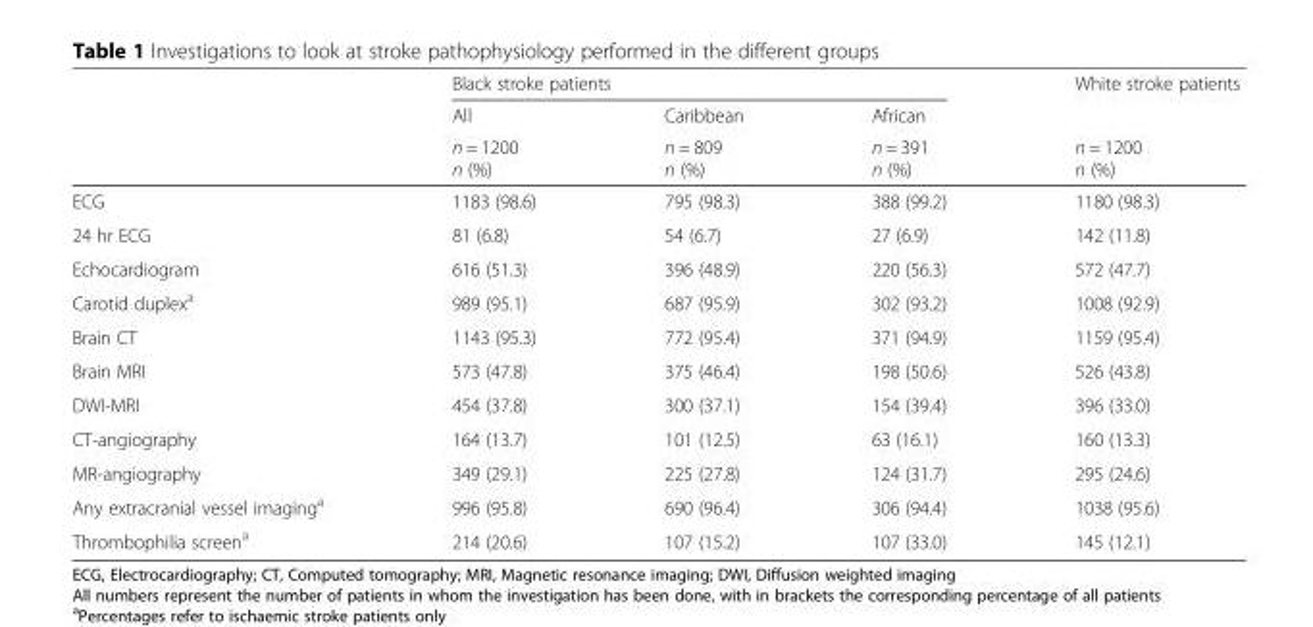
<table><thead><tr><td rowspan="3"></td><td colspan="3">Black stroke patients</td><td rowspan="3">White stroke patients n = 1200 n (%)</td></tr><tr><td rowspan="2">All n = 1200 n (%)</td><td rowspan="2">Caribbean n = 809 n (%)</td><td rowspan="2">African n = 391 n (%)</td></tr><tr></tr></thead><tbody><tr><td>ECG</td><td>1183 (98.6)</td><td>795 (98.3)</td><td>388 (99.2)</td><td>1180 (98.3)</td></tr><tr><td>24 hr ECG</td><td>81 (6.8)</td><td>54 (6.7)</td><td>27 (6.9)</td><td>142 (11.8)</td></tr><tr><td>Echocardiogram</td><td>616 (51.3)</td><td>396 (48.9)</td><td>220 (56.3)</td><td>572 (47.7)</td></tr><tr><td>Carotid duplex<sup>a</sup></td><td>989 (95.1)</td><td>687 (95.9)</td><td>302 (93.2)</td><td>1008 (92.9)</td></tr><tr><td>Brain CT</td><td>1143 (95.3)</td><td>772 (95.4)</td><td>371 (94.9)</td><td>1159 (95.4)</td></tr><tr><td>Brain MRI</td><td>573 (47.8)</td><td>375 (46.4)</td><td>198 (50.6)</td><td>526 (43.8)</td></tr><tr><td>DWI-MRI</td><td>454 (37.8)</td><td>300 (37.1)</td><td>154 (39.4)</td><td>396 (33.0)</td></tr><tr><td>CT-angiography</td><td>164 (13.7)</td><td>101 (12.5)</td><td>63 (16.1)</td><td>160 (13.3)</td></tr><tr><td>MR-angiography</td><td>349 (29.1)</td><td>225 (27.8)</td><td>124 (31.7)</td><td>295 (24.6)</td></tr><tr><td>Any extracranial vessel imaging<sup>a</sup></td><td>996 (95.8)</td><td>690 (96.4)</td><td>306 (94.4)</td><td>1038 (95.6)</td></tr><tr><td>Thrombophilia screen<sup>a</sup></td><td>214 (20.6)</td><td>107 (15.2)</td><td>107 (33.0)</td><td>145 (12.1)</td></tr></tbody></table>